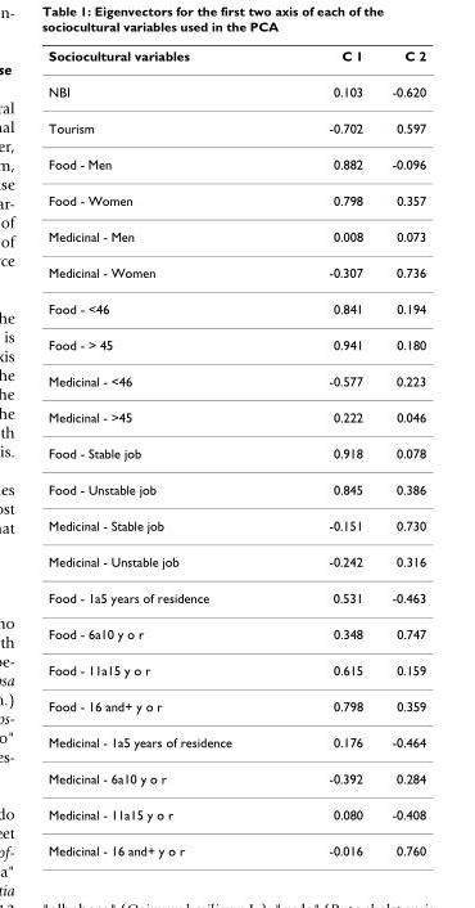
<table><thead><tr><td>Sociocultural variables</td><td>C 1</td><td>C 2</td></tr></thead><tbody><tr><td>NBI</td><td>0.103</td><td>-0.620</td></tr><tr><td>Tourism</td><td>-0.702</td><td>0.597</td></tr><tr><td>Food - Men</td><td>0.882</td><td>-0.096</td></tr><tr><td>Food - Women</td><td>0.798</td><td>0.357</td></tr><tr><td>Medicinal - Men</td><td>0.008</td><td>0.073</td></tr><tr><td>Medicinal - Women</td><td>-0.307</td><td>0.736</td></tr><tr><td>Food - &lt;46</td><td>0.841</td><td>0.194</td></tr><tr><td>Food - &gt; 45</td><td>0.941</td><td>0.180</td></tr><tr><td>Medicinal - &lt;46</td><td>-0.577</td><td>0.223</td></tr><tr><td>Medicinal - &gt;45</td><td>0.222</td><td>0.046</td></tr><tr><td>Food - Stable job</td><td>0.918</td><td>0.078</td></tr><tr><td>Food - Unstable job</td><td>0.845</td><td>0.386</td></tr><tr><td>Medicinal - Stable job</td><td>-0.151</td><td>0.730</td></tr><tr><td>Medicinal - Unstable job</td><td>-0.242</td><td>0.316</td></tr><tr><td>Food - 1a5 years of residence</td><td>0.531</td><td>-0.463</td></tr><tr><td>Food - 6a10 y o r</td><td>0.348</td><td>0.747</td></tr><tr><td>Food - 11a15 y o r</td><td>0.615</td><td>0.159</td></tr><tr><td>Food - 16 and+ y o r</td><td>0.798</td><td>0.359</td></tr><tr><td>Medicinal - 1a5 years of residence</td><td>0.176</td><td>-0.464</td></tr><tr><td>Medicinal - 6a10 y o r</td><td>-0.392</td><td>0.284</td></tr><tr><td>Medicinal - 11a15 y o r</td><td>0.080</td><td>-0.408</td></tr><tr><td>Medicinal - 16 and+ y o r</td><td>-0.016</td><td>0.760</td></tr></tbody></table>